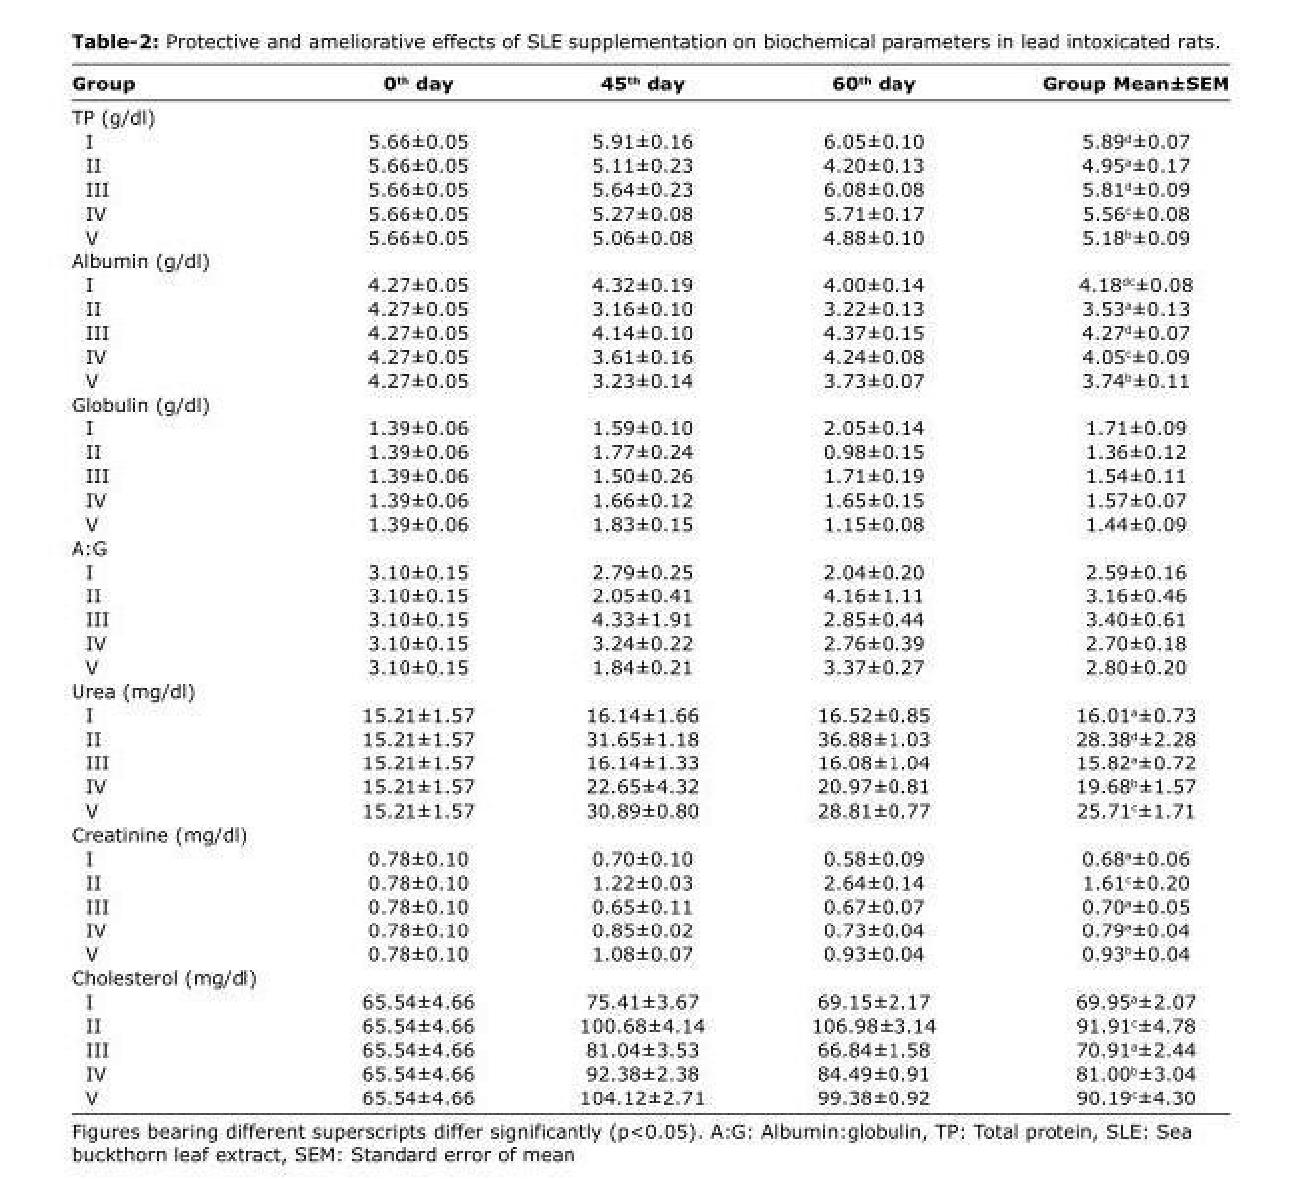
<table><thead><tr><td>Group</td><td>0<sup>th</sup> day</td><td>45<sup>th</sup> day</td><td>60<sup>th</sup> day</td><td>Group Mean±SEM</td></tr></thead><tbody><tr><td colspan="5">TP (g/dl)</td></tr><tr><td>I</td><td>5.66±0.05</td><td>5.91±0.16</td><td>6.05±0.10</td><td>5.89<sup>d</sup>±0.07</td></tr><tr><td>II</td><td>5.66±0.05</td><td>5.11±0.23</td><td>4.20±0.13</td><td>4.95<sup>a</sup>±0.17</td></tr><tr><td>III</td><td>5.66±0.05</td><td>5.64±0.23</td><td>6.08±0.08</td><td>5.81<sup>d</sup>±0.09</td></tr><tr><td>IV</td><td>5.66±0.05</td><td>5.27±0.08</td><td>5.71±0.17</td><td>5.56<sup>c</sup>±0.08</td></tr><tr><td>V</td><td>5.66±0.05</td><td>5.06±0.08</td><td>4.88±0.10</td><td>5.18<sup>b</sup>±0.09</td></tr><tr><td colspan="5">Albumin (g/dl)</td></tr><tr><td>I</td><td>4.27±0.05</td><td>4.32±0.19</td><td>4.00±0.14</td><td>4.18<sup>dc</sup>±0.08</td></tr><tr><td>II</td><td>4.27±0.05</td><td>3.16±0.10</td><td>3.22±0.13</td><td>3.53<sup>a</sup>±0.13</td></tr><tr><td>III</td><td>4.27±0.05</td><td>4.14±0.10</td><td>4.37±0.15</td><td>4.27<sup>d</sup>±0.07</td></tr><tr><td>IV</td><td>4.27±0.05</td><td>3.61±0.16</td><td>4.24±0.08</td><td>4.05<sup>c</sup>±0.09</td></tr><tr><td>V</td><td>4.27±0.05</td><td>3.23±0.14</td><td>3.73±0.07</td><td>3.74<sup>b</sup>±0.11</td></tr><tr><td colspan="5">Globulin (g/dl)</td></tr><tr><td>I</td><td>1.39±0.06</td><td>1.59±0.10</td><td>2.05±0.14</td><td>1.71±0.09</td></tr><tr><td>II</td><td>1.39±0.06</td><td>1.77±0.24</td><td>0.98±0.15</td><td>1.36±0.12</td></tr><tr><td>III</td><td>1.39±0.06</td><td>1.50±0.26</td><td>1.71±0.19</td><td>1.54±0.11</td></tr><tr><td>IV</td><td>1.39±0.06</td><td>1.66±0.12</td><td>1.65±0.15</td><td>1.57±0.07</td></tr><tr><td>V</td><td>1.39±0.06</td><td>1.83±0.15</td><td>1.15±0.08</td><td>1.44±0.09</td></tr><tr><td colspan="5">A:G</td></tr><tr><td>I</td><td>3.10±0.15</td><td>2.79±0.25</td><td>2.04±0.20</td><td>2.59±0.16</td></tr><tr><td>II</td><td>3.10±0.15</td><td>2.05±0.41</td><td>4.16±1.11</td><td>3.16±0.46</td></tr><tr><td>III</td><td>3.10±0.15</td><td>4.33±1.91</td><td>2.85±0.44</td><td>3.40±0.61</td></tr><tr><td>IV</td><td>3.10±0.15</td><td>3.24±0.22</td><td>2.76±0.39</td><td>2.70±0.18</td></tr><tr><td>V</td><td>3.10±0.15</td><td>1.84±0.21</td><td>3.37±0.27</td><td>2.80±0.20</td></tr><tr><td colspan="5">Urea (mg/dl)</td></tr><tr><td>I</td><td>15.21±1.57</td><td>16.14±1.66</td><td>16.52±0.85</td><td>16.01<sup>a</sup>±0.73</td></tr><tr><td>II</td><td>15.21±1.57</td><td>31.65±1.18</td><td>36.88±1.03</td><td>28.38<sup>d</sup>±2.28</td></tr><tr><td>III</td><td>15.21±1.57</td><td>16.14±1.33</td><td>16.08±1.04</td><td>15.82<sup>a</sup>±0.72</td></tr><tr><td>IV</td><td>15.21±1.57</td><td>22.65±4.32</td><td>20.97±0.81</td><td>19.68<sup>b</sup>±1.57</td></tr><tr><td>V</td><td>15.21±1.57</td><td>30.89±0.80</td><td>28.81±0.77</td><td>25.71<sup>c</sup>±1.71</td></tr><tr><td colspan="5">Creatinine (mg/dl)</td></tr><tr><td>I</td><td>0.78±0.10</td><td>0.70±0.10</td><td>0.58±0.09</td><td>0.68<sup>a</sup>±0.06</td></tr><tr><td>II</td><td>0.78±0.10</td><td>1.22±0.03</td><td>2.64±0.14</td><td>1.61<sup>c</sup>±0.20</td></tr><tr><td>III</td><td>0.78±0.10</td><td>0.65±0.11</td><td>0.67±0.07</td><td>0.70<sup>a</sup>±0.05</td></tr><tr><td>IV</td><td>0.78±0.10</td><td>0.85±0.02</td><td>0.73±0.04</td><td>0.79<sup>a</sup>±0.04</td></tr><tr><td>V</td><td>0.78±0.10</td><td>1.08±0.07</td><td>0.93±0.04</td><td>0.93<sup>b</sup>±0.04</td></tr><tr><td colspan="5">Cholesterol (mg/dl)</td></tr><tr><td>I</td><td>65.54±4.66</td><td>75.41±3.67</td><td>69.15±2.17</td><td>69.95<sup>a</sup>±2.07</td></tr><tr><td>II</td><td>65.54±4.66</td><td>100.68±4.14</td><td>106.98±3.14</td><td>91.91<sup>c</sup>±4.78</td></tr><tr><td>III</td><td>65.54±4.66</td><td>81.04±3.53</td><td>66.84±1.58</td><td>70.91<sup>a</sup>±2.44</td></tr><tr><td>IV</td><td>65.54±4.66</td><td>92.38±2.38</td><td>84.49±0.91</td><td>81.00<sup>b</sup>±3.04</td></tr><tr><td>V</td><td>65.54±4.66</td><td>104.12±2.71</td><td>99.38±0.92</td><td>90.19<sup>c</sup>±4.30</td></tr></tbody></table>